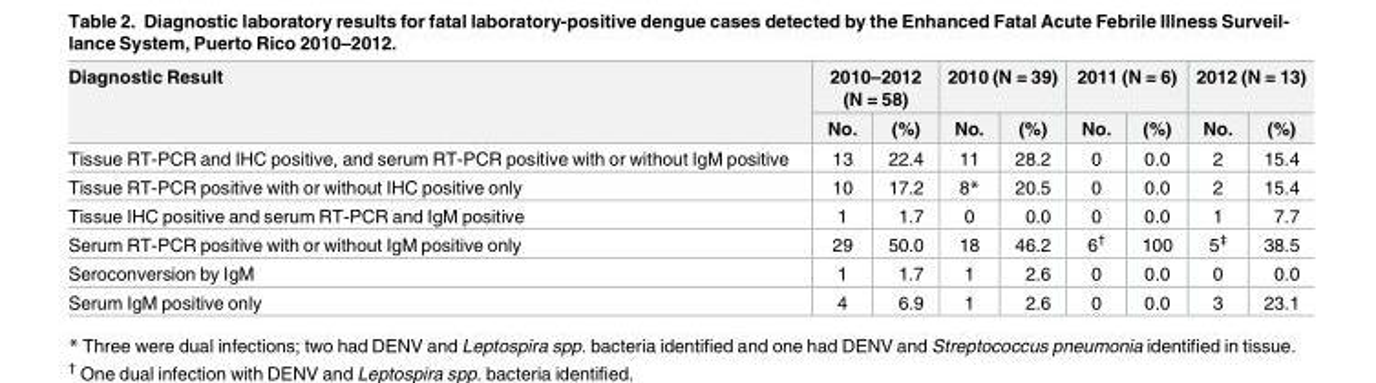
<table><thead><tr><td rowspan="2">Diagnostic Result</td><td colspan="2">2010–2012 (N = 58)</td><td colspan="2">2010 (N = 39)</td><td colspan="2">2011 (N = 6)</td><td colspan="2">2012 (N = 13)</td></tr><tr><td>No.</td><td>(%)</td><td>No.</td><td>(%)</td><td>No.</td><td>(%)</td><td>No.</td><td>(%)</td></tr></thead><tbody><tr><td>Tissue RT-PCR and IHC positive, and serum RT-PCR positive with or without IgM positive</td><td>13</td><td>22.4</td><td>11</td><td>28.2</td><td>0</td><td>0.0</td><td>2</td><td>15.4</td></tr><tr><td>Tissue RT-PCR positive with or without IHC positive only</td><td>10</td><td>17.2</td><td>8*</td><td>20.5</td><td>0</td><td>0.0</td><td>2</td><td>15.4</td></tr><tr><td>Tissue IHC positive and serum RT-PCR and IgM positive</td><td>1</td><td>1.7</td><td>0</td><td>0.0</td><td>0</td><td>0.0</td><td>1</td><td>7.7</td></tr><tr><td>Serum RT-PCR positive with or without IgM positive only</td><td>29</td><td>50.0</td><td>18</td><td>46.2</td><td>6<sup>†</sup></td><td>100</td><td>5<sup>‡</sup></td><td>38.5</td></tr><tr><td>Seroconversion by IgM</td><td>1</td><td>1.7</td><td>1</td><td>2.6</td><td>0</td><td>0.0</td><td>0</td><td>0.0</td></tr><tr><td>Serum IgM positive only</td><td>4</td><td>6.9</td><td>1</td><td>2.6</td><td>0</td><td>0.0</td><td>3</td><td>23.1</td></tr></tbody></table>